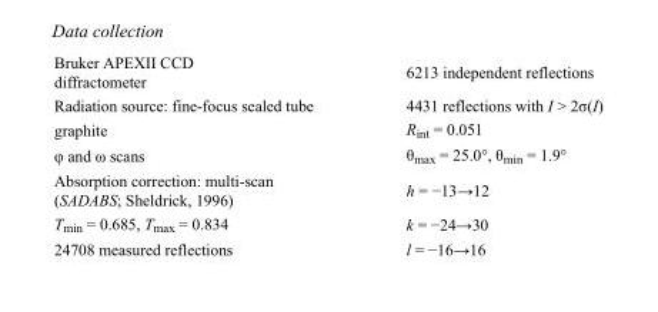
<table><tbody><tr><td>Bruker APEXII CCD diffractometer</td><td>6213 independent reflections</td></tr><tr><td>Radiation source: fine-focus sealed tube</td><td>4431 reflections with I &gt; 2σ(I)</td></tr><tr><td>graphite</td><td>R<sub>int</sub> = 0.051</td></tr><tr><td>φ and ω scans</td><td>θ<sub>max</sub> = 25.0°, θ<sub>min</sub> = 1.9°</td></tr><tr><td>Absorption correction: multi-scan (SADABS; Sheldrick, 1996)</td><td>h = −13→12</td></tr><tr><td>T<sub>min</sub> = 0.685, T<sub>max</sub> = 0.834</td><td>k = −24→30</td></tr><tr><td>24708 measured reflections</td><td>l = −16→16</td></tr></tbody></table>